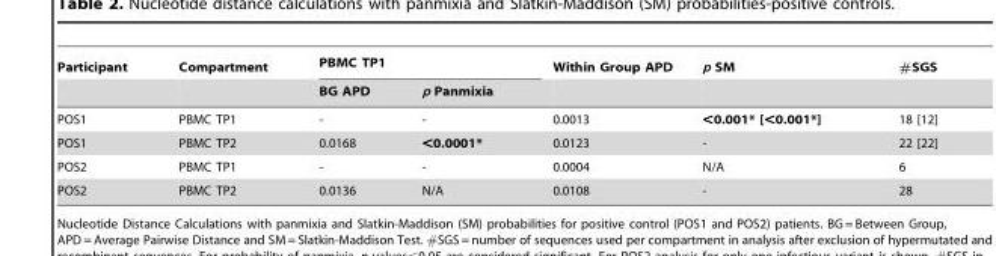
<table><thead><tr><td rowspan="2">Participant</td><td rowspan="2">Compartment</td><td colspan="2">PBMC TP1</td><td rowspan="2">Within Group APD</td><td rowspan="2">p SM</td><td rowspan="2">#SGS</td></tr><tr><td>BG APD</td><td>p Panmixia</td></tr></thead><tbody><tr><td>POS1</td><td>PBMC TP1</td><td>-</td><td>-</td><td>0.0013</td><td>&lt;0.001* [&lt;0.001*]</td><td>18 [12]</td></tr><tr><td>POS1</td><td>PBMC TP2</td><td>0.0168</td><td>&lt;0.0001*</td><td>0.0123</td><td>-</td><td>22 [22]</td></tr><tr><td>POS2</td><td>PBMC TP1</td><td>-</td><td>-</td><td>0.0004</td><td>N/A</td><td>6</td></tr><tr><td>POS2</td><td>PBMC TP2</td><td>0.0136</td><td>N/A</td><td>0.0108</td><td>-</td><td>28</td></tr></tbody></table>